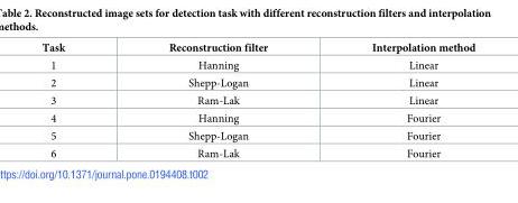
<table><thead><tr><td>Task</td><td>Reconstruction filter</td><td>Interpolation method</td></tr></thead><tbody><tr><td>1</td><td>Hanning</td><td>Linear</td></tr><tr><td>2</td><td>Shepp-Logan</td><td>Linear</td></tr><tr><td>3</td><td>Ram-Lak</td><td>Linear</td></tr><tr><td>4</td><td>Hanning</td><td>Fourier</td></tr><tr><td>5</td><td>Shepp-Logan</td><td>Fourier</td></tr><tr><td>6</td><td>Ram-Lak</td><td>Fourier</td></tr></tbody></table>